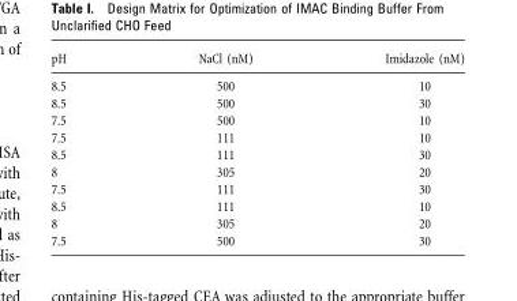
<table><thead><tr><td>pH</td><td>NaCl (nM)</td><td>Imidazole (nM)</td></tr></thead><tbody><tr><td>8.5</td><td>500</td><td>10</td></tr><tr><td>8.5</td><td>500</td><td>30</td></tr><tr><td>7.5</td><td>500</td><td>10</td></tr><tr><td>7.5</td><td>111</td><td>10</td></tr><tr><td>8.5</td><td>111</td><td>30</td></tr><tr><td>8</td><td>305</td><td>20</td></tr><tr><td>7.5</td><td>111</td><td>30</td></tr><tr><td>8.5</td><td>111</td><td>10</td></tr><tr><td>8</td><td>305</td><td>20</td></tr><tr><td>7.5</td><td>500</td><td>30</td></tr></tbody></table>